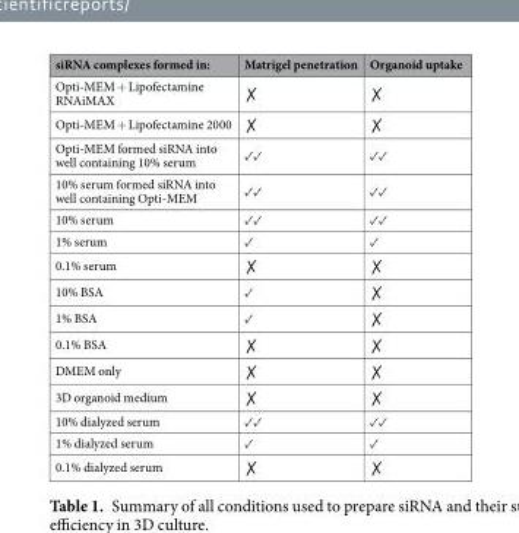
<table><thead><tr><td>siRNA complexes formed in:</td><td>Matrigel penetration</td><td>Organoid uptake</td></tr></thead><tbody><tr><td>Opti-MEM + Lipofectamine RNAiMAX</td><td>✗</td><td>✗</td></tr><tr><td>Opti-MEM + Lipofectamine 2000</td><td>✗</td><td>✗</td></tr><tr><td>Opti-MEM formed siRNA into well containing 10% serum</td><td>✓✓</td><td>✓✓</td></tr><tr><td>10% serum formed siRNA into well containing Opti-MEM</td><td>✓✓</td><td>✓✓</td></tr><tr><td>10% serum</td><td>✓✓</td><td>✓✓</td></tr><tr><td>1% serum</td><td>✓</td><td>✓</td></tr><tr><td>0.1% serum</td><td>✗</td><td>✗</td></tr><tr><td>10% BSA</td><td>✓</td><td>✗</td></tr><tr><td>1% BSA</td><td>✓</td><td>✗</td></tr><tr><td>0.1% BSA</td><td>✗</td><td>✗</td></tr><tr><td>DMEM only</td><td>✗</td><td>✗</td></tr><tr><td>3D organoid medium</td><td>✗</td><td>✗</td></tr><tr><td>10% dialyzed serum</td><td>✓✓</td><td>✓✓</td></tr><tr><td>1% dialyzed serum</td><td>✓</td><td>✓</td></tr><tr><td>0.1% dialyzed serum</td><td>✗</td><td>✗</td></tr></tbody></table>